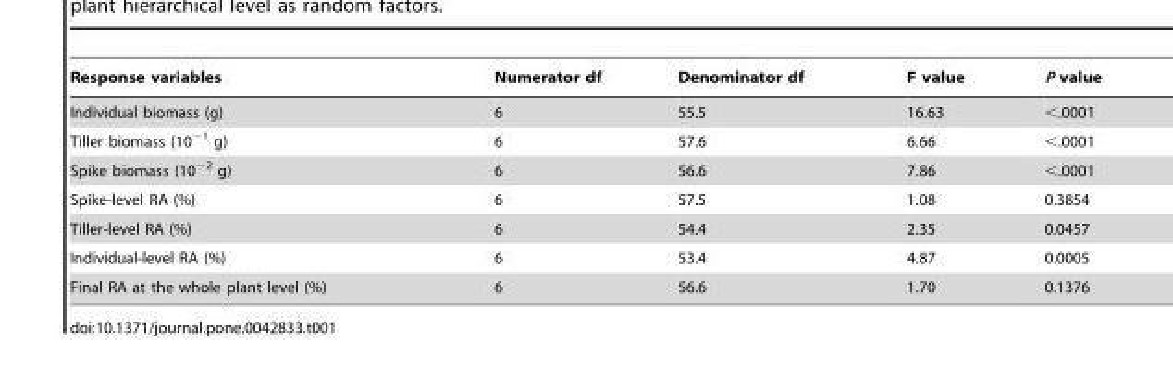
<table><thead><tr><td>Response variables</td><td>Numerator df</td><td>Denominator df</td><td>F value</td><td>P value</td></tr></thead><tbody><tr><td>Individual biomass (g)</td><td>6</td><td>55.5</td><td>16.63</td><td>&lt;.0001</td></tr><tr><td>Tiller biomass (10<sup>−1</sup> g)</td><td>6</td><td>57.6</td><td>6.66</td><td>&lt;.0001</td></tr><tr><td>Spike biomass (10<sup>−2</sup> g)</td><td>6</td><td>56.6</td><td>7.86</td><td>&lt;.0001</td></tr><tr><td>Spike-level RA (%)</td><td>6</td><td>57.5</td><td>1.08</td><td>0.3854</td></tr><tr><td>Tiller-level RA (%)</td><td>6</td><td>54.4</td><td>2.35</td><td>0.0457</td></tr><tr><td>Individual-level RA (%)</td><td>6</td><td>53.4</td><td>4.87</td><td>0.0005</td></tr><tr><td>Final RA at the whole plant level (%)</td><td>6</td><td>56.6</td><td>1.70</td><td>0.1376</td></tr></tbody></table>